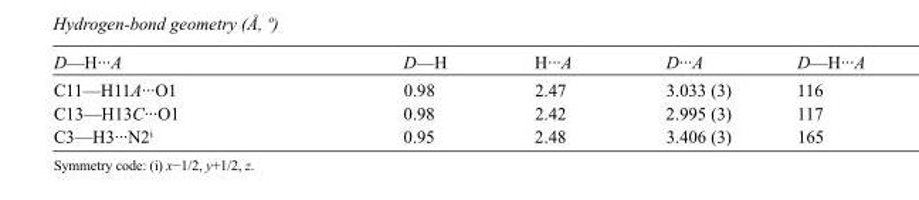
<table><tbody><tr><td>D—H···A</td><td>D—H</td><td>H···A</td><td>D···A</td><td>D—H···A</td></tr><tr><td>C11—H11A···O1</td><td>0.98</td><td>2.47</td><td>3.033 (3)</td><td>116</td></tr><tr><td>C13—H13C···O1</td><td>0.98</td><td>2.42</td><td>2.995 (3)</td><td>117</td></tr><tr><td>C3—H3···N2<sup>i</sup></td><td>0.95</td><td>2.48</td><td>3.406 (3)</td><td>165</td></tr></tbody></table>